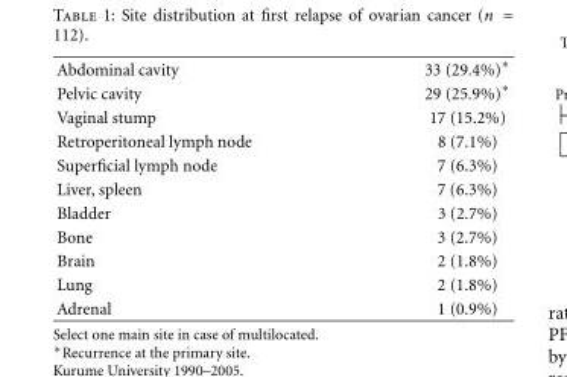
<table><tbody><tr><td>Abdominal cavity</td><td>33 (29.4%)∗</td></tr><tr><td>Pelvic cavity</td><td>29 (25.9%)∗</td></tr><tr><td>Vaginal stump</td><td>17 (15.2%)</td></tr><tr><td>Retroperitoneal lymph node</td><td>8 (7.1%)</td></tr><tr><td>Superficial lymph node</td><td>7 (6.3%)</td></tr><tr><td>Liver, spleen</td><td>7 (6.3%)</td></tr><tr><td>Bladder</td><td>3 (2.7%)</td></tr><tr><td>Bone</td><td>3 (2.7%)</td></tr><tr><td>Brain</td><td>2 (1.8%)</td></tr><tr><td>Lung</td><td>2 (1.8%)</td></tr><tr><td>Adrenal</td><td>1 (0.9%)</td></tr></tbody></table>